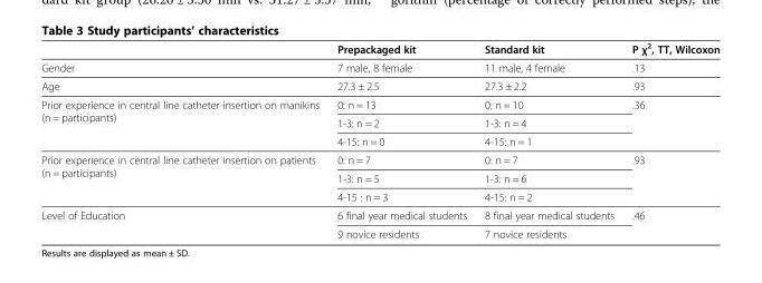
<table><thead><tr><td></td><td>Prepackaged kit</td><td>Standard kit</td><td>P χ<sup>2</sup>, TT, Wilcoxon</td></tr></thead><tbody><tr><td>Gender</td><td>7 male, 8 female</td><td>11 male, 4 female</td><td>.13</td></tr><tr><td>Age</td><td>27.3 ± 2.5</td><td>27.3 ± 2.2</td><td>.93</td></tr><tr><td rowspan="3">Prior experience in central line catheter insertion on manikins (n = participants)</td><td>0: n = 13</td><td>0: n = 10</td><td rowspan="3">.36</td></tr><tr><td>1-3: n = 2</td><td>1-3: n = 4</td></tr><tr><td>4-15: n = 0</td><td>4-15: n = 1</td></tr><tr><td rowspan="3">Prior experience in central line catheter insertion on patients (n = participants)</td><td>0: n = 7</td><td>0: n = 7</td><td rowspan="3">.93</td></tr><tr><td>1-3: n = 5</td><td>1-3: n = 6</td></tr><tr><td>4-15 : n = 3</td><td>4-15: n = 2</td></tr><tr><td rowspan="2">Level of Education</td><td>6 final year medical students</td><td>8 final year medical students</td><td rowspan="2">.46</td></tr><tr><td>9 novice residents</td><td>7 novice residents</td></tr></tbody></table>